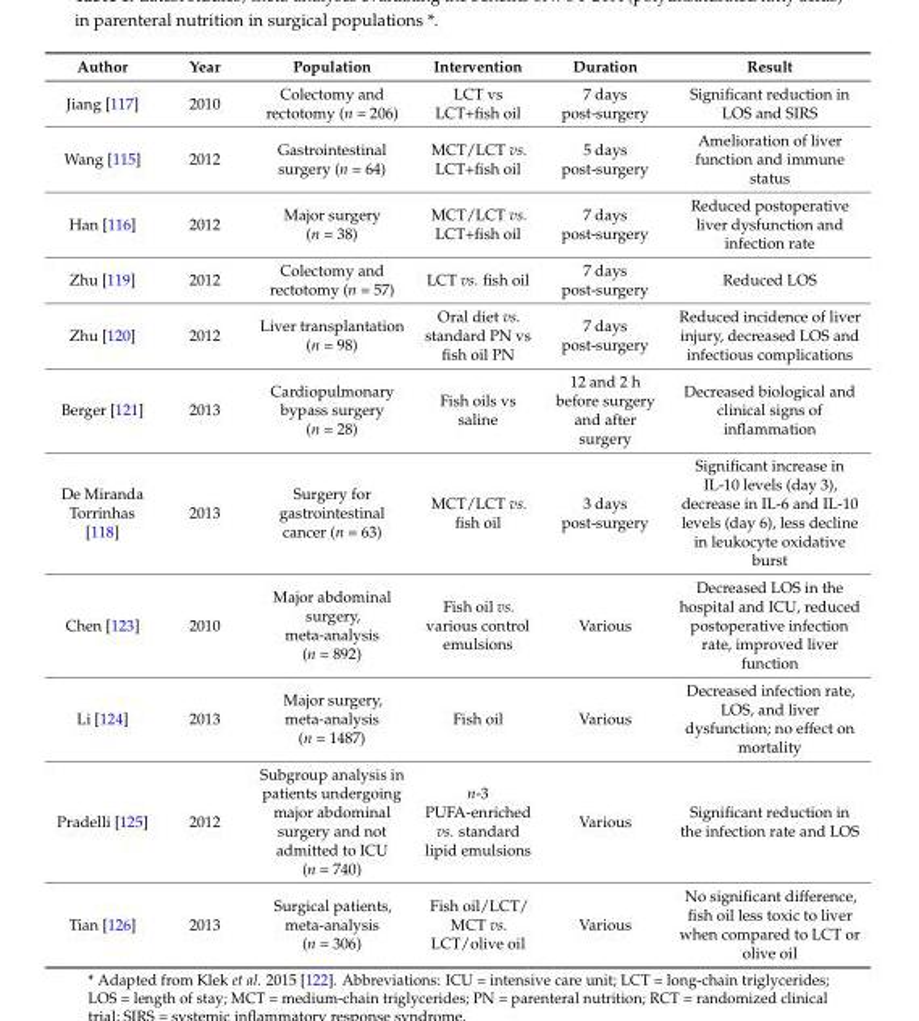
<table><thead><tr><td>Author</td><td>Year</td><td>Population</td><td>Intervention</td><td>Duration</td><td>Result</td></tr></thead><tbody><tr><td>Jiang [117]</td><td>2010</td><td>Colectomy and rectotomy (n = 206)</td><td>LCT vs LCT+fish oil</td><td>7 days post-surgery</td><td>Significant reduction in LOS and SIRS</td></tr><tr><td>Wang [115]</td><td>2012</td><td>Gastrointestinal surgery (n = 64)</td><td>MCT/LCT vs. LCT+fish oil</td><td>5 days post-surgery</td><td>Amelioration of liver function and immune status</td></tr><tr><td>Han [116]</td><td>2012</td><td>Major surgery (n = 38)</td><td>MCT/LCT vs. LCT+fish oil</td><td>7 days post-surgery</td><td>Reduced postoperative liver dysfunction and infection rate</td></tr><tr><td>Zhu [119]</td><td>2012</td><td>Colectomy and rectotomy (n = 57)</td><td>LCT vs. fish oil</td><td>7 days post-surgery</td><td>Reduced LOS</td></tr><tr><td>Zhu [120]</td><td>2012</td><td>Liver transplantation (n = 98)</td><td>Oral diet vs. standard PN vs fish oil PN</td><td>7 days post-surgery</td><td>Reduced incidence of liver injury, decreased LOS and infectious complications</td></tr><tr><td>Berger [121]</td><td>2013</td><td>Cardiopulmonary bypass surgery (n = 28)</td><td>Fish oils vs saline</td><td>12 and 2 h before surgery and after surgery</td><td>Decreased biological and clinical signs of inflammation</td></tr><tr><td>De Miranda Torrinhas [118]</td><td>2013</td><td>Surgery for gastrointestinal cancer (n = 63)</td><td>MCT/LCT vs. fish oil</td><td>3 days post-surgery</td><td>Significant increase in IL-10 levels (day 3), decrease in IL-6 and IL-10 levels (day 6), less decline in leukocyte oxidative burst</td></tr><tr><td>Chen [123]</td><td>2010</td><td>Major abdominal surgery, meta-analysis (n = 892)</td><td>Fish oil vs. various control emulsions</td><td>Various</td><td>Decreased LOS in the hospital and ICU, reduced postoperative infection rate, improved liver function</td></tr><tr><td>Li [124]</td><td>2013</td><td>Major surgery, meta-analysis (n = 1487)</td><td>Fish oil</td><td>Various</td><td>Decreased infection rate, LOS, and liver dysfunction; no effect on mortality</td></tr><tr><td>Pradelli [125]</td><td>2012</td><td>Subgroup analysis in patients undergoing major abdominal surgery and not admitted to ICU (n = 740)</td><td>n-3 PUFA-enriched vs. standard lipid emulsions</td><td>Various</td><td>Significant reduction in the infection rate and LOS</td></tr><tr><td>Tian [126]</td><td>2013</td><td>Surgical patients, meta-analysis (n = 306)</td><td>Fish oil/LCT/ MCT vs. LCT/olive oil</td><td>Various</td><td>No significant difference, fish oil less toxic to liver when compared to LCT or olive oil</td></tr></tbody></table>